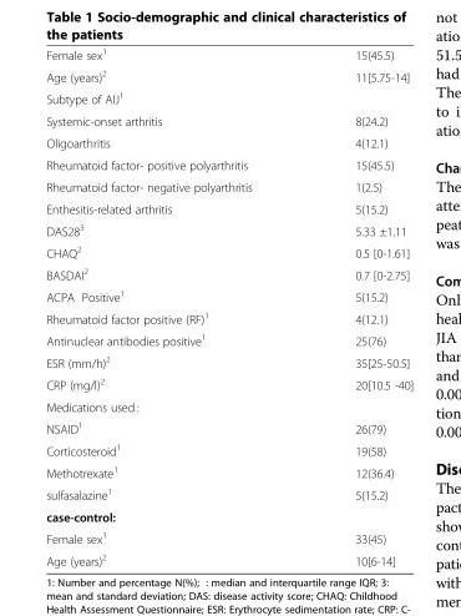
<table><tbody><tr><td>Female sex<sup>1</sup></td><td>15(45.5)</td></tr><tr><td>Age (years)<sup>2</sup></td><td>11[5.75-14]</td></tr><tr><td colspan="2">Subtype of AIJ<sup>1</sup></td></tr><tr><td>Systemic-onset arthritis</td><td>8(24.2)</td></tr><tr><td>Oligoarthritis</td><td>4(12.1)</td></tr><tr><td>Rheumatoid factor- positive polyarthritis</td><td>15(45.5)</td></tr><tr><td>Rheumatoid factor- negative polyarthritis</td><td>1(2.5)</td></tr><tr><td>Enthesitis-related arthritis</td><td>5(15.2)</td></tr><tr><td>DAS28<sup>3</sup></td><td>5.33 ±1.11</td></tr><tr><td>CHAQ<sup>2</sup></td><td>0.5 [0-1.61]</td></tr><tr><td>BASDAI<sup>2</sup></td><td>0.7 [0-2.75]</td></tr><tr><td>ACPA Positive<sup>1</sup></td><td>5(15.2)</td></tr><tr><td>Rheumatoid factor positive (RF)<sup>1</sup></td><td>4(12.1)</td></tr><tr><td>Antinuclear antibodies positive<sup>1</sup></td><td>25(76)</td></tr><tr><td>ESR (mm/h)<sup>2</sup></td><td>35[25-50.5]</td></tr><tr><td>CRP (mg/l)<sup>2</sup></td><td>20[10.5 -40]</td></tr><tr><td colspan="2">Medications used :</td></tr><tr><td>NSAID<sup>1</sup></td><td>26(79)</td></tr><tr><td>Corticosteroid<sup>1</sup></td><td>19(58)</td></tr><tr><td>Methotrexate<sup>1</sup></td><td>12(36.4)</td></tr><tr><td>sulfasalazine<sup>1</sup></td><td>5(15.2)</td></tr><tr><td colspan="2">case-control:</td></tr><tr><td>Female sex<sup>1</sup></td><td>33(45)</td></tr><tr><td>Age (years)<sup>2</sup></td><td>10[6-14]</td></tr></tbody></table>